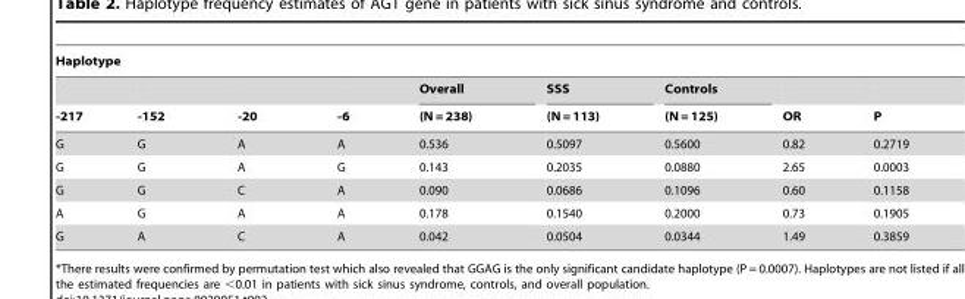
<table><thead><tr><td colspan="9">Haplotype</td></tr><tr><td rowspan="2">-217</td><td rowspan="2">-152</td><td rowspan="2">-20</td><td rowspan="2">-6</td><td rowspan="2">Overall (N = 238)</td><td rowspan="2">SSS (N = 113)</td><td rowspan="2">Controls (N = 125)</td><td rowspan="2">OR</td><td rowspan="2">P</td></tr><tr></tr></thead><tbody><tr><td>G</td><td>G</td><td>A</td><td>A</td><td>0.536</td><td>0.5097</td><td>0.5600</td><td>0.82</td><td>0.2719</td></tr><tr><td>G</td><td>G</td><td>A</td><td>G</td><td>0.143</td><td>0.2035</td><td>0.0880</td><td>2.65</td><td>0.0003</td></tr><tr><td>G</td><td>G</td><td>C</td><td>A</td><td>0.090</td><td>0.0686</td><td>0.1096</td><td>0.60</td><td>0.1158</td></tr><tr><td>A</td><td>G</td><td>A</td><td>A</td><td>0.178</td><td>0.1540</td><td>0.2000</td><td>0.73</td><td>0.1905</td></tr><tr><td>G</td><td>A</td><td>C</td><td>A</td><td>0.042</td><td>0.0504</td><td>0.0344</td><td>1.49</td><td>0.3859</td></tr></tbody></table>